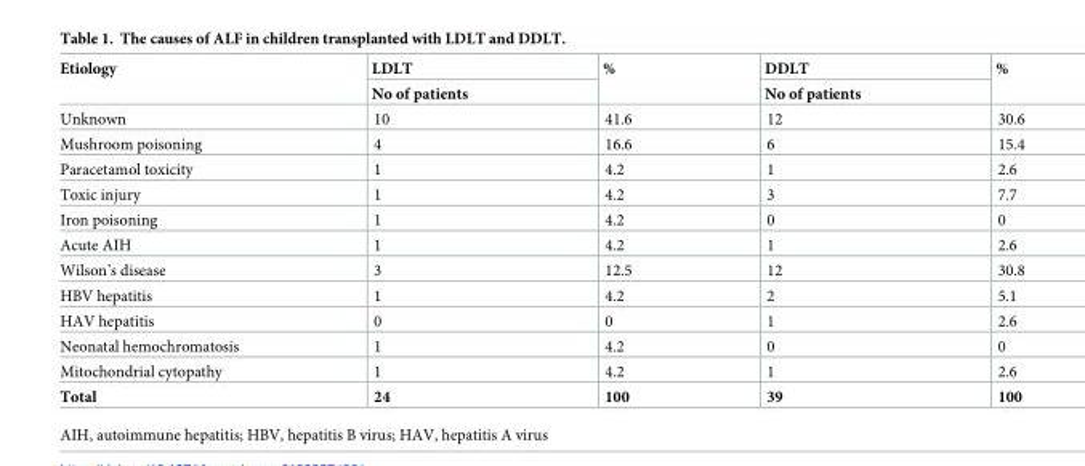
<table><thead><tr><td rowspan="2">Etiology</td><td rowspan="2">LDLT No of patients</td><td rowspan="2">%</td><td rowspan="2">DDLT No of patients</td><td rowspan="2">%</td></tr><tr></tr></thead><tbody><tr><td>Unknown</td><td>10</td><td>41.6</td><td>12</td><td>30.6</td></tr><tr><td>Mushroom poisoning</td><td>4</td><td>16.6</td><td>6</td><td>15.4</td></tr><tr><td>Paracetamol toxicity</td><td>1</td><td>4.2</td><td>1</td><td>2.6</td></tr><tr><td>Toxic injury</td><td>1</td><td>4.2</td><td>3</td><td>7.7</td></tr><tr><td>Iron poisoning</td><td>1</td><td>4.2</td><td>0</td><td>0</td></tr><tr><td>Acute AIH</td><td>1</td><td>4.2</td><td>1</td><td>2.6</td></tr><tr><td>Wilson’s disease</td><td>3</td><td>12.5</td><td>12</td><td>30.8</td></tr><tr><td>HBV hepatitis</td><td>1</td><td>4.2</td><td>2</td><td>5.1</td></tr><tr><td>HAV hepatitis</td><td>0</td><td>0</td><td>1</td><td>2.6</td></tr><tr><td>Neonatal hemochromatosis</td><td>1</td><td>4.2</td><td>0</td><td>0</td></tr><tr><td>Mitochondrial cytopathy</td><td>1</td><td>4.2</td><td>1</td><td>2.6</td></tr><tr><td>Total</td><td>24</td><td>100</td><td>39</td><td>100</td></tr></tbody></table>